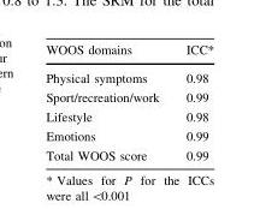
<table><thead><tr><td>WOOS domains</td><td>ICC*</td></tr></thead><tbody><tr><td>Physical symptoms</td><td>0.98</td></tr><tr><td>Sport/recreation/work</td><td>0.99</td></tr><tr><td>Lifestyle</td><td>0.98</td></tr><tr><td>Emotions</td><td>0.99</td></tr><tr><td>Total WOOS score</td><td>0.99</td></tr></tbody></table>